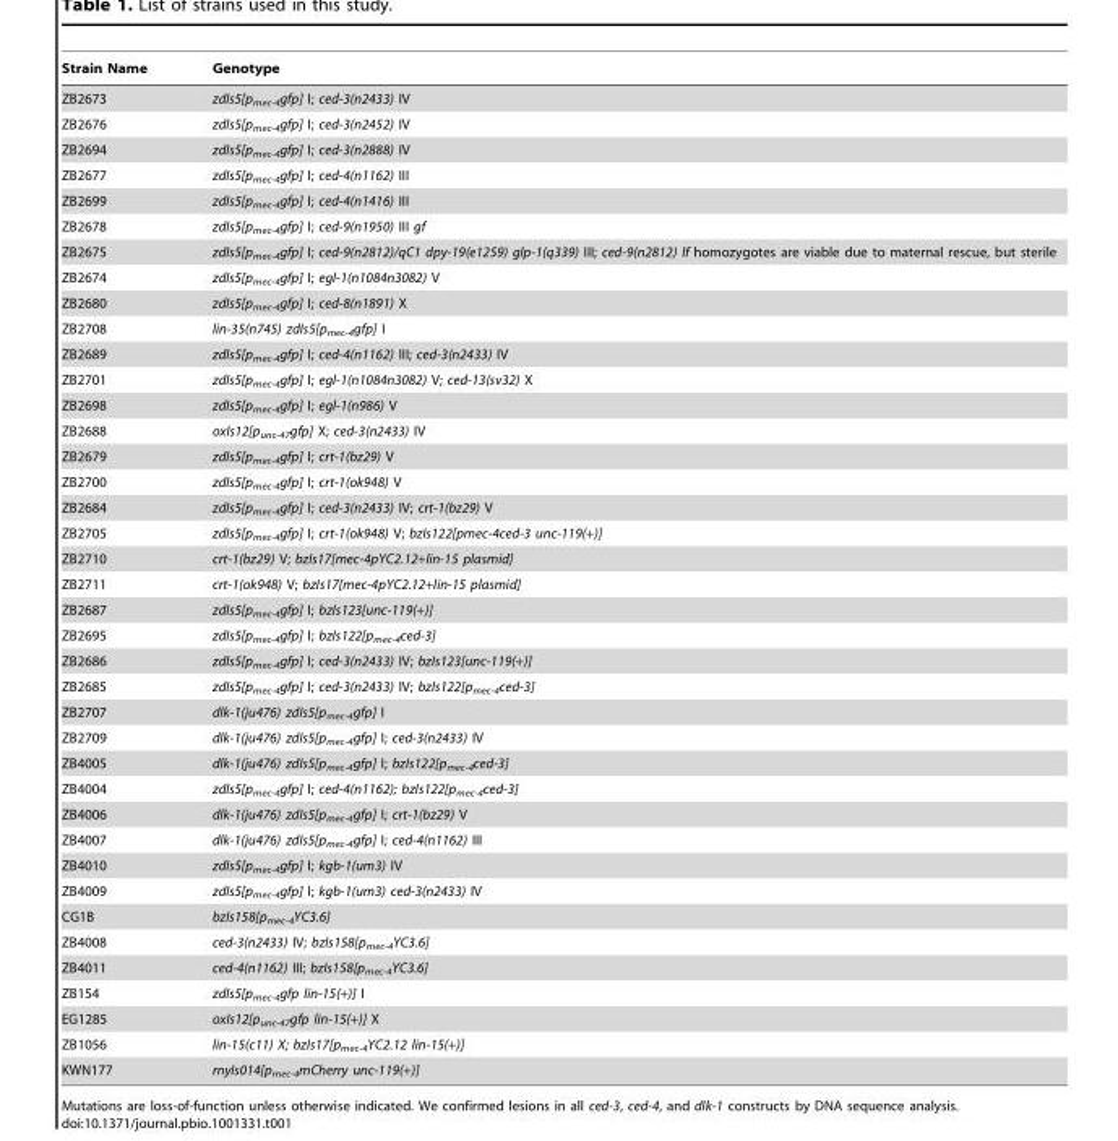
<table><thead><tr><td>Strain Name</td><td>Genotype</td></tr></thead><tbody><tr><td>ZB2673</td><td>zdIs5[p<sub>mec-4</sub>gfp] I; ced-3(n2433) IV</td></tr><tr><td>ZB2676</td><td>zdIs5[p<sub>mec-4</sub>gfp] I; ced-3(n2452) IV</td></tr><tr><td>ZB2694</td><td>zdIs5[p<sub>mec-4</sub>gfp] I; ced-3(n2888) IV</td></tr><tr><td>ZB2677</td><td>zdIs5[p<sub>mec-4</sub>gfp] I; ced-4(n1162) III</td></tr><tr><td>ZB2699</td><td>zdIs5[p<sub>mec-4</sub>gfp] I; ced-4(n1416) III</td></tr><tr><td>ZB2678</td><td>zdIs5[p<sub>mec-4</sub>gfp] I; ced-9(n1950) III gf</td></tr><tr><td>ZB2675</td><td>zdIs5[p<sub>mec-4</sub>gfp] I; ced-9(n2812)/qC1 dpy-19(e1259) glp-1(q339) III; ced-9(n2812) lf homozygotes are viable due to maternal rescue, but sterile</td></tr><tr><td>ZB2674</td><td>zdIs5[p<sub>mec-4</sub>gfp] I; egl-1(n1084n3082) V</td></tr><tr><td>ZB2680</td><td>zdIs5[p<sub>mec-4</sub>gfp] I; ced-8(n1891) X</td></tr><tr><td>ZB2708</td><td>lin-35(n745) zdIs5[p<sub>mec-4</sub>gfp] I</td></tr><tr><td>ZB2689</td><td>zdIs5[p<sub>mec-4</sub>gfp] I; ced-4(n1162) III; ced-3(n2433) IV</td></tr><tr><td>ZB2701</td><td>zdIs5[p<sub>mec-4</sub>gfp] I; egl-1(n1084n3082) V; ced-13(sv32) X</td></tr><tr><td>ZB2698</td><td>zdIs5[p<sub>mec-4</sub>gfp] I; egl-1(n986) V</td></tr><tr><td>ZB2688</td><td>oxIs12[p<sub>unc-47</sub>gfp] X; ced-3(n2433) IV</td></tr><tr><td>ZB2679</td><td>zdIs5[p<sub>mec-4</sub>gfp] I; crt-1(bz29) V</td></tr><tr><td>ZB2700</td><td>zdIs5[p<sub>mec-4</sub>gfp] I; crt-1(ok948) V</td></tr><tr><td>ZB2684</td><td>zdIs5[p<sub>mec-4</sub>gfp] I; ced-3(n2433) IV; crt-1(bz29) V</td></tr><tr><td>ZB2705</td><td>zdIs5[p<sub>mec-4</sub>gfp] I; crt-1(ok948) V; bzIs122[pmec-4ced-3 unc-119(+)]</td></tr><tr><td>ZB2710</td><td>crt-1(bz29) V; bzIs17[mec-4pYC2.12+lin-15 plasmid]</td></tr><tr><td>ZB2711</td><td>crt-1(ok948) V; bzIs17[mec-4pYC2.12+lin-15 plasmid]</td></tr><tr><td>ZB2687</td><td>zdIs5[p<sub>mec-4</sub>gfp] I; bzIs123[unc-119(+)]</td></tr><tr><td>ZB2695</td><td>zdIs5[p<sub>mec-4</sub>gfp] I; bzIs122[p<sub>mec-4</sub>ced-3]</td></tr><tr><td>ZB2686</td><td>zdIs5[p<sub>mec-4</sub>gfp] I; ced-3(n2433) IV; bzIs123[unc-119(+)]</td></tr><tr><td>ZB2685</td><td>zdIs5[p<sub>mec-4</sub>gfp] I; ced-3(n2433) IV; bzIs122[p<sub>mec-4</sub>ced-3]</td></tr><tr><td>ZB2707</td><td>dlk-1(ju476) zdIs5[p<sub>mec-4</sub>gfp] I</td></tr><tr><td>ZB2709</td><td>dlk-1(ju476) zdIs5[p<sub>mec-4</sub>gfp] I; ced-3(n2433) IV</td></tr><tr><td>ZB4005</td><td>dlk-1(ju476) zdIs5[p<sub>mec-4</sub>gfp] I; bzIs122[p<sub>mec-4</sub>ced-3]</td></tr><tr><td>ZB4004</td><td>zdIs5[p<sub>mec-4</sub>gfp] I; ced-4(n1162); bzIs122[p<sub>mec-4</sub>ced-3]</td></tr><tr><td>ZB4006</td><td>dlk-1(ju476) zdIs5[p<sub>mec-4</sub>gfp] I; crt-1(bz29) V</td></tr><tr><td>ZB4007</td><td>dlk-1(ju476) zdIs5[p<sub>mec-4</sub>gfp] I; ced-4(n1162) III</td></tr><tr><td>ZB4010</td><td>zdIs5[p<sub>mec-4</sub>gfp] I; kgb-1(um3) IV</td></tr><tr><td>ZB4009</td><td>zdIs5[p<sub>mec-4</sub>gfp] I; kgb-1(um3) ced-3(n2433) IV</td></tr><tr><td>CG1B</td><td>bzIs158[p<sub>mec-4</sub>YC3.6]</td></tr><tr><td>ZB4008</td><td>ced-3(n2433) IV; bzIs158[p<sub>mec-4</sub>YC3.6]</td></tr><tr><td>ZB4011</td><td>ced-4(n1162) III; bzIs158[p<sub>mec-4</sub>YC3.6]</td></tr><tr><td>ZB154</td><td>zdIs5[p<sub>mec-4</sub>gfp lin-15(+)] I</td></tr><tr><td>EG1285</td><td>oxIs12[p<sub>unc-47</sub>gfp lin-15(+)] X</td></tr><tr><td>ZB1056</td><td>lin-15(c11) X; bzIs17[p<sub>mec-4</sub>YC2.12 lin-15(+)]</td></tr><tr><td>KWN177</td><td>rnyIs014[p<sub>mec-4</sub>mCherry unc-119(+)]</td></tr></tbody></table>